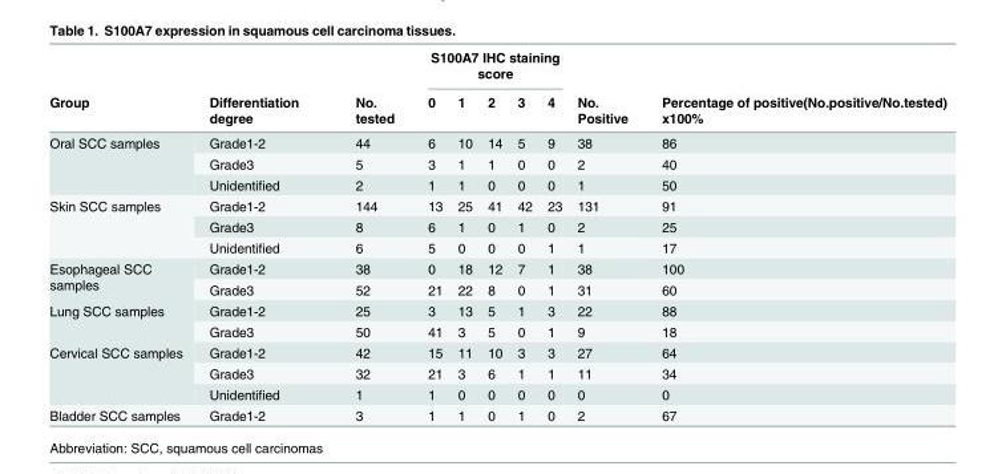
<table><thead><tr><td rowspan="2">Group</td><td rowspan="2">Differentiation degree</td><td rowspan="2">No. tested</td><td colspan="5">S100A7 IHC staining score</td><td rowspan="2">No. Positive</td><td rowspan="2">Percentage of positive(No.positive/No.tested) x100%</td></tr><tr><td>0</td><td>1</td><td>2</td><td>3</td><td>4</td></tr></thead><tbody><tr><td rowspan="3">Oral SCC samples</td><td>Grade1-2</td><td>44</td><td>6</td><td>10</td><td>14</td><td>5</td><td>9</td><td>38</td><td>86</td></tr><tr><td>Grade3</td><td>5</td><td>3</td><td>1</td><td>1</td><td>0</td><td>0</td><td>2</td><td>40</td></tr><tr><td>Unidentified</td><td>2</td><td>1</td><td>1</td><td>0</td><td>0</td><td>0</td><td>1</td><td>50</td></tr><tr><td rowspan="3">Skin SCC samples</td><td>Grade1-2</td><td>144</td><td>13</td><td>25</td><td>41</td><td>42</td><td>23</td><td>131</td><td>91</td></tr><tr><td>Grade3</td><td>8</td><td>6</td><td>1</td><td>0</td><td>1</td><td>0</td><td>2</td><td>25</td></tr><tr><td>Unidentified</td><td>6</td><td>5</td><td>0</td><td>0</td><td>0</td><td>1</td><td>1</td><td>17</td></tr><tr><td rowspan="2">Esophageal SCC samples</td><td>Grade1-2</td><td>38</td><td>0</td><td>18</td><td>12</td><td>7</td><td>1</td><td>38</td><td>100</td></tr><tr><td>Grade3</td><td>52</td><td>21</td><td>22</td><td>8</td><td>0</td><td>1</td><td>31</td><td>60</td></tr><tr><td rowspan="2">Lung SCC samples</td><td>Grade1-2</td><td>25</td><td>3</td><td>13</td><td>5</td><td>1</td><td>3</td><td>22</td><td>88</td></tr><tr><td>Grade3</td><td>50</td><td>41</td><td>3</td><td>5</td><td>0</td><td>1</td><td>9</td><td>18</td></tr><tr><td rowspan="3">Cervical SCC samples</td><td>Grade1-2</td><td>42</td><td>15</td><td>11</td><td>10</td><td>3</td><td>3</td><td>27</td><td>64</td></tr><tr><td>Grade3</td><td>32</td><td>21</td><td>3</td><td>6</td><td>1</td><td>1</td><td>11</td><td>34</td></tr><tr><td>Unidentified</td><td>1</td><td>1</td><td>0</td><td>0</td><td>0</td><td>0</td><td>0</td><td>0</td></tr><tr><td>Bladder SCC samples</td><td>Grade1-2</td><td>3</td><td>1</td><td>1</td><td>0</td><td>1</td><td>0</td><td>2</td><td>67</td></tr></tbody></table>